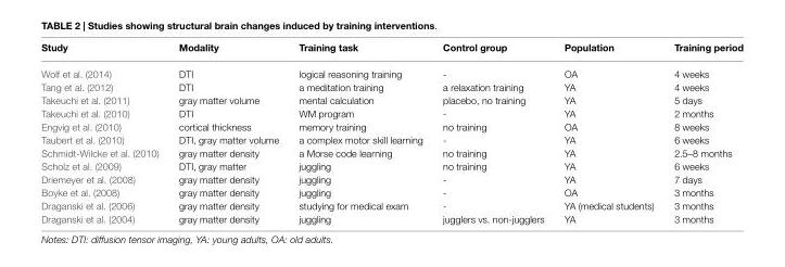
<table><thead><tr><td>Study</td><td>Modality</td><td>Training task</td><td>Control group</td><td>Population</td><td>Training period</td></tr></thead><tbody><tr><td>Wolf et al. (2014)</td><td>DTI</td><td>logical reasoning training</td><td>-</td><td>OA</td><td>4 weeks</td></tr><tr><td>Tang et al. (2012)</td><td>DTI</td><td>a meditation training</td><td>a relaxation training</td><td>YA</td><td>4 weeks</td></tr><tr><td>Takeuchi et al. (2011)</td><td>gray matter volume</td><td>mental calculation</td><td>placebo, no training</td><td>YA</td><td>5 days</td></tr><tr><td>Takeuchi et al. (2010)</td><td>DTI</td><td>WM program</td><td>-</td><td>YA</td><td>2 months</td></tr><tr><td>Engvig et al. (2010)</td><td>cortical thickness</td><td>memory training</td><td>no training</td><td>OA</td><td>8 weeks</td></tr><tr><td>Taubert et al. (2010)</td><td>DTI, gray matter volume</td><td>a complex motor skill learning</td><td>-</td><td>YA</td><td>6 weeks</td></tr><tr><td>Schmidt-Wilcke et al. (2010)</td><td>gray matter density</td><td>a Morse code learning</td><td>no training</td><td>YA</td><td>2.5–8 months</td></tr><tr><td>Scholz et al. (2009)</td><td>DTI, gray matter</td><td>juggling</td><td>no training</td><td>YA</td><td>6 weeks</td></tr><tr><td>Driemeyer et al. (2008)</td><td>gray matter density</td><td>juggling</td><td>-</td><td>YA</td><td>7 days</td></tr><tr><td>Boyke et al. (2008)</td><td>gray matter density</td><td>juggling</td><td>-</td><td>OA</td><td>3 months</td></tr><tr><td>Draganski et al. (2006)</td><td>gray matter density</td><td>studying for medical exam</td><td>-</td><td>YA (medical students)</td><td>3 months</td></tr><tr><td>Draganski et al. (2004)</td><td>gray matter density</td><td>juggling</td><td>jugglers vs. non-jugglers</td><td>YA</td><td>3 months</td></tr></tbody></table>